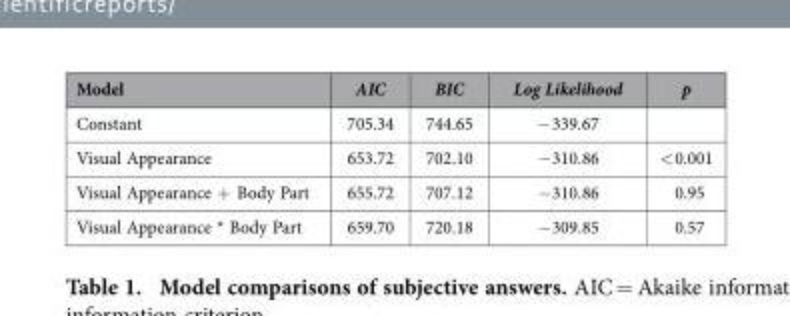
<table><thead><tr><td>Model</td><td>AIC</td><td>BIC</td><td>Log Likelihood</td><td>p</td></tr></thead><tbody><tr><td>Constant</td><td>705.34</td><td>744.65</td><td>− 339.67</td><td></td></tr><tr><td>Visual Appearance</td><td>653.72</td><td>702.10</td><td>− 310.86</td><td>&lt; 0.001</td></tr><tr><td>Visual Appearance + Body Part</td><td>655.72</td><td>707.12</td><td>− 310.86</td><td>0.95</td></tr><tr><td>Visual Appearance * Body Part</td><td>659.70</td><td>720.18</td><td>− 309.85</td><td>0.57</td></tr></tbody></table>